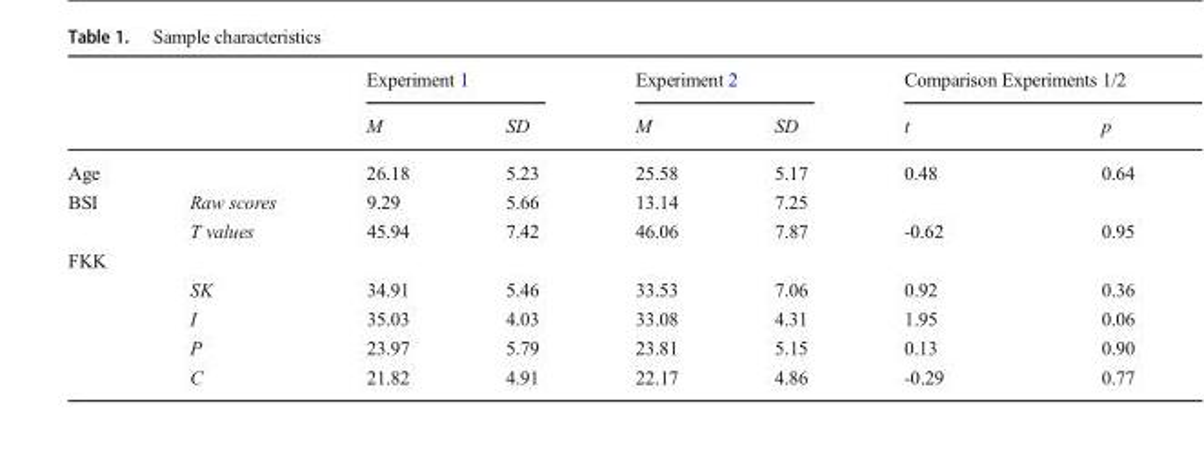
<table><thead><tr><td rowspan="2"></td><td rowspan="2"></td><td colspan="2">Experiment 1</td><td colspan="2">Experiment 2</td><td colspan="2">Comparison Experiments 1/2</td></tr><tr><td>M</td><td>SD</td><td>M</td><td>SD</td><td>t</td><td>p</td></tr></thead><tbody><tr><td>Age</td><td></td><td>26.18</td><td>5.23</td><td>25.58</td><td>5.17</td><td>0.48</td><td>0.64</td></tr><tr><td rowspan="2">BSI</td><td>Raw scores</td><td>9.29</td><td>5.66</td><td>13.14</td><td>7.25</td><td></td><td></td></tr><tr><td>T values</td><td>45.94</td><td>7.42</td><td>46.06</td><td>7.87</td><td>-0.62</td><td>0.95</td></tr><tr><td colspan="8">FKK</td></tr><tr><td></td><td>SK</td><td>34.91</td><td>5.46</td><td>33.53</td><td>7.06</td><td>0.92</td><td>0.36</td></tr><tr><td></td><td>I</td><td>35.03</td><td>4.03</td><td>33.08</td><td>4.31</td><td>1.95</td><td>0.06</td></tr><tr><td></td><td>P</td><td>23.97</td><td>5.79</td><td>23.81</td><td>5.15</td><td>0.13</td><td>0.90</td></tr><tr><td></td><td>C</td><td>21.82</td><td>4.91</td><td>22.17</td><td>4.86</td><td>-0.29</td><td>0.77</td></tr></tbody></table>